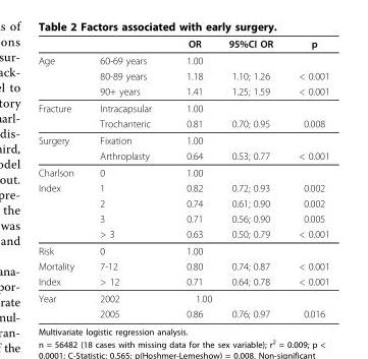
<table><thead><tr><td></td><td></td><td>OR</td><td>95%CI OR</td><td>p</td></tr></thead><tbody><tr><td rowspan="3">Age</td><td>60-69 years</td><td>1.00</td><td></td><td></td></tr><tr><td>80-89 years</td><td>1.18</td><td>1.10; 1.26</td><td>&lt; 0.001</td></tr><tr><td>90+ years</td><td>1.41</td><td>1.25; 1.59</td><td>&lt; 0.001</td></tr><tr><td rowspan="2">Fracture</td><td>Intracapsular</td><td>1.00</td><td></td><td></td></tr><tr><td>Trochanteric</td><td>0.81</td><td>0.70; 0.95</td><td>0.008</td></tr><tr><td rowspan="2">Surgery</td><td>Fixation</td><td>1.00</td><td></td><td></td></tr><tr><td>Arthroplasty</td><td>0.64</td><td>0.53; 0.77</td><td>&lt; 0.001</td></tr><tr><td>Charlson</td><td>0</td><td>1.00</td><td></td><td></td></tr><tr><td rowspan="4">Index</td><td>1</td><td>0.82</td><td>0.72; 0.93</td><td>0.002</td></tr><tr><td>2</td><td>0.74</td><td>0.61; 0.90</td><td>0.002</td></tr><tr><td>3</td><td>0.71</td><td>0.56; 0.90</td><td>0.005</td></tr><tr><td>&gt; 3</td><td>0.63</td><td>0.50; 0.79</td><td>&lt; 0.001</td></tr><tr><td>Risk</td><td>0</td><td>1.00</td><td></td><td></td></tr><tr><td>Mortality</td><td>7-12</td><td>0.80</td><td>0.74; 0.87</td><td>&lt; 0.001</td></tr><tr><td>Index</td><td>&gt; 12</td><td>0.71</td><td>0.64; 0.78</td><td>&lt; 0.001</td></tr><tr><td rowspan="2">Year</td><td>2002</td><td>1.00</td><td></td><td></td></tr><tr><td>2005</td><td>0.86</td><td>0.76; 0.97</td><td>0.016</td></tr></tbody></table>